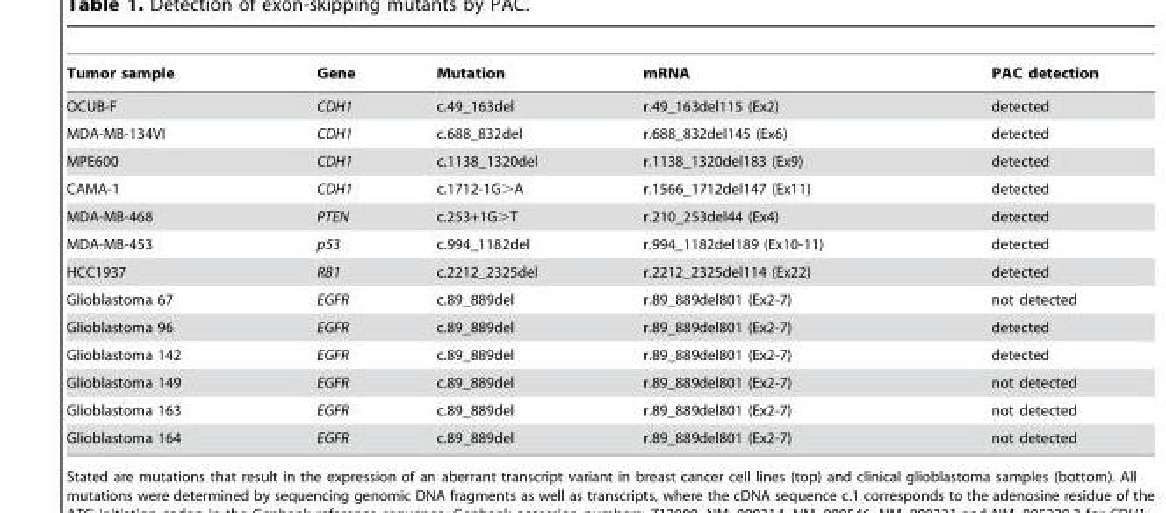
<table><thead><tr><td>Tumor sample</td><td>Gene</td><td>Mutation</td><td>mRNA</td><td>PAC detection</td></tr></thead><tbody><tr><td>OCUB-F</td><td>CDH1</td><td>c.49_163del</td><td>r.49_163del115 (Ex2)</td><td>detected</td></tr><tr><td>MDA-MB-134VI</td><td>CDH1</td><td>c.688_832del</td><td>r.688_832del145 (Ex6)</td><td>detected</td></tr><tr><td>MPE600</td><td>CDH1</td><td>c.1138_1320del</td><td>r.1138_1320del183 (Ex9)</td><td>detected</td></tr><tr><td>CAMA-1</td><td>CDH1</td><td>c.1712-1G&gt;A</td><td>r.1566_1712del147 (Ex11)</td><td>detected</td></tr><tr><td>MDA-MB-468</td><td>PTEN</td><td>c.253+1G&gt;T</td><td>r.210_253del44 (Ex4)</td><td>detected</td></tr><tr><td>MDA-MB-453</td><td>p53</td><td>c.994_1182del</td><td>r.994_1182del189 (Ex10-11)</td><td>detected</td></tr><tr><td>HCC1937</td><td>RB1</td><td>c.2212_2325del</td><td>r.2212_2325del114 (Ex22)</td><td>detected</td></tr><tr><td>Glioblastoma 67</td><td>EGFR</td><td>c.89_889del</td><td>r.89_889del801 (Ex2-7)</td><td>not detected</td></tr><tr><td>Glioblastoma 96</td><td>EGFR</td><td>c.89_889del</td><td>r.89_889del801 (Ex2-7)</td><td>detected</td></tr><tr><td>Glioblastoma 142</td><td>EGFR</td><td>c.89_889del</td><td>r.89_889del801 (Ex2-7)</td><td>detected</td></tr><tr><td>Glioblastoma 149</td><td>EGFR</td><td>c.89_889del</td><td>r.89_889del801 (Ex2-7)</td><td>not detected</td></tr><tr><td>Glioblastoma 163</td><td>EGFR</td><td>c.89_889del</td><td>r.89_889del801 (Ex2-7)</td><td>not detected</td></tr><tr><td>Glioblastoma 164</td><td>EGFR</td><td>c.89_889del</td><td>r.89_889del801 (Ex2-7)</td><td>not detected</td></tr></tbody></table>